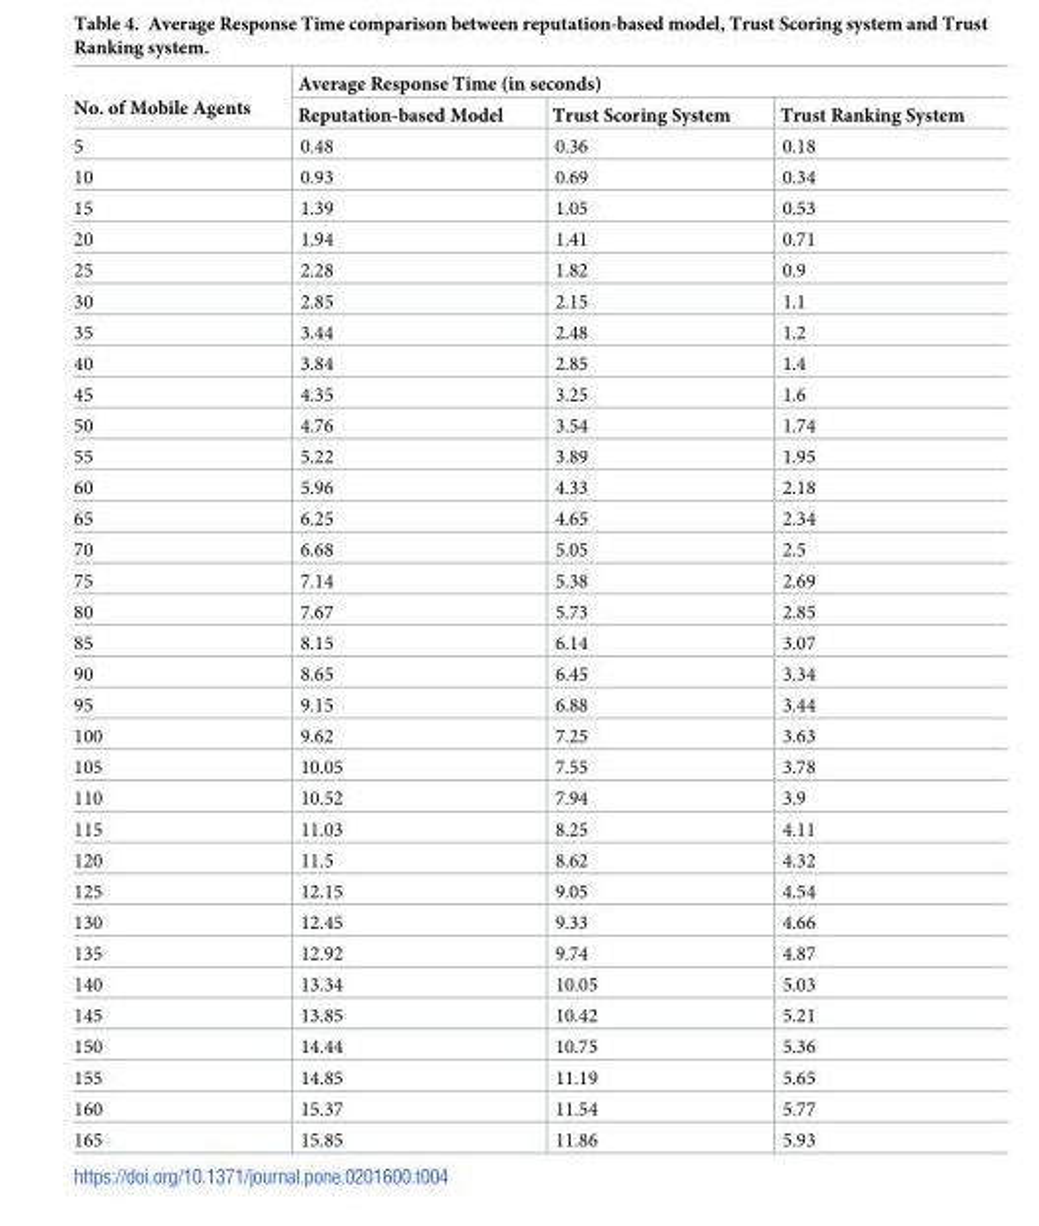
<table><thead><tr><td rowspan="2">No. of Mobile Agents</td><td colspan="3">Average Response Time (in seconds)</td></tr><tr><td>Reputation-based Model</td><td>Trust Scoring System</td><td>Trust Ranking System</td></tr></thead><tbody><tr><td>5</td><td>0.48</td><td>0.36</td><td>0.18</td></tr><tr><td>10</td><td>0.93</td><td>0.69</td><td>0.34</td></tr><tr><td>15</td><td>1.39</td><td>1.05</td><td>0.53</td></tr><tr><td>20</td><td>1.94</td><td>1.41</td><td>0.71</td></tr><tr><td>25</td><td>2.28</td><td>1.82</td><td>0.9</td></tr><tr><td>30</td><td>2.85</td><td>2.15</td><td>1.1</td></tr><tr><td>35</td><td>3.44</td><td>2.48</td><td>1.2</td></tr><tr><td>40</td><td>3.84</td><td>2.85</td><td>1.4</td></tr><tr><td>45</td><td>4.35</td><td>3.25</td><td>1.6</td></tr><tr><td>50</td><td>4.76</td><td>3.54</td><td>1.74</td></tr><tr><td>55</td><td>5.22</td><td>3.89</td><td>1.95</td></tr><tr><td>60</td><td>5.96</td><td>4.33</td><td>2.18</td></tr><tr><td>65</td><td>6.25</td><td>4.65</td><td>2.34</td></tr><tr><td>70</td><td>6.68</td><td>5.05</td><td>2.5</td></tr><tr><td>75</td><td>7.14</td><td>5.38</td><td>2.69</td></tr><tr><td>80</td><td>7.67</td><td>5.73</td><td>2.85</td></tr><tr><td>85</td><td>8.15</td><td>6.14</td><td>3.07</td></tr><tr><td>90</td><td>8.65</td><td>6.45</td><td>3.34</td></tr><tr><td>95</td><td>9.15</td><td>6.88</td><td>3.44</td></tr><tr><td>100</td><td>9.62</td><td>7.25</td><td>3.63</td></tr><tr><td>105</td><td>10.05</td><td>7.55</td><td>3.78</td></tr><tr><td>110</td><td>10.52</td><td>7.94</td><td>3.9</td></tr><tr><td>115</td><td>11.03</td><td>8.25</td><td>4.11</td></tr><tr><td>120</td><td>11.5</td><td>8.62</td><td>4.32</td></tr><tr><td>125</td><td>12.15</td><td>9.05</td><td>4.54</td></tr><tr><td>130</td><td>12.45</td><td>9.33</td><td>4.66</td></tr><tr><td>135</td><td>12.92</td><td>9.74</td><td>4.87</td></tr><tr><td>140</td><td>13.34</td><td>10.05</td><td>5.03</td></tr><tr><td>145</td><td>13.85</td><td>10.42</td><td>5.21</td></tr><tr><td>150</td><td>14.44</td><td>10.75</td><td>5.36</td></tr><tr><td>155</td><td>14.85</td><td>11.19</td><td>5.65</td></tr><tr><td>160</td><td>15.37</td><td>11.54</td><td>5.77</td></tr><tr><td>165</td><td>15.85</td><td>11.86</td><td>5.93</td></tr></tbody></table>